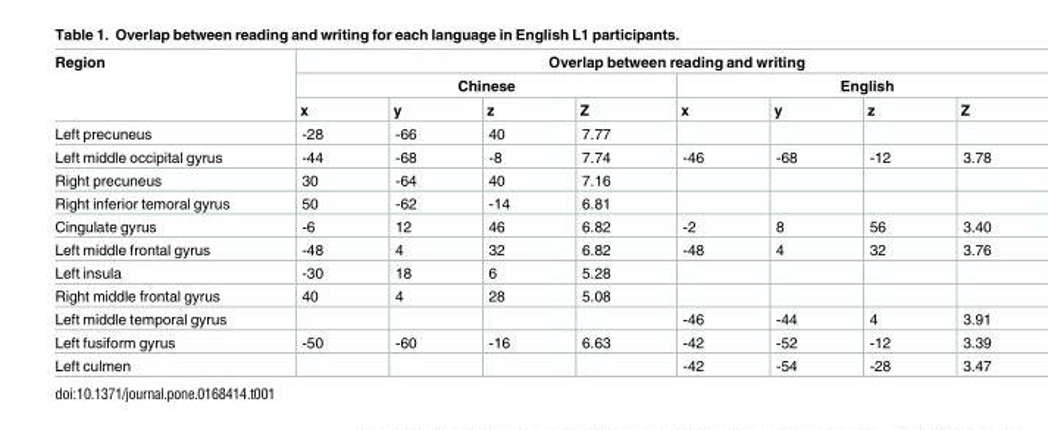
<table><thead><tr><td rowspan="3">Region</td><td colspan="8">Overlap between reading and writing</td></tr><tr><td colspan="4">Chinese</td><td colspan="4">English</td></tr><tr><td>x</td><td>y</td><td>z</td><td>Z</td><td>x</td><td>y</td><td>z</td><td>Z</td></tr></thead><tbody><tr><td>Left precuneus</td><td>-28</td><td>-66</td><td>40</td><td>7.77</td><td></td><td></td><td></td><td></td></tr><tr><td>Left middle occipital gyrus</td><td>-44</td><td>-68</td><td>-8</td><td>7.74</td><td>-46</td><td>-68</td><td>-12</td><td>3.78</td></tr><tr><td>Right precuneus</td><td>30</td><td>-64</td><td>40</td><td>7.16</td><td></td><td></td><td></td><td></td></tr><tr><td>Right inferior temoral gyrus</td><td>50</td><td>-62</td><td>-14</td><td>6.81</td><td></td><td></td><td></td><td></td></tr><tr><td>Cingulate gyrus</td><td>-6</td><td>12</td><td>46</td><td>6.82</td><td>-2</td><td>8</td><td>56</td><td>3.40</td></tr><tr><td>Left middle frontal gyrus</td><td>-48</td><td>4</td><td>32</td><td>6.82</td><td>-48</td><td>4</td><td>32</td><td>3.76</td></tr><tr><td>Left insula</td><td>-30</td><td>18</td><td>6</td><td>5.28</td><td></td><td></td><td></td><td></td></tr><tr><td>Right middle frontal gyrus</td><td>40</td><td>4</td><td>28</td><td>5.08</td><td></td><td></td><td></td><td></td></tr><tr><td>Left middle temporal gyrus</td><td></td><td></td><td></td><td></td><td>-46</td><td>-44</td><td>4</td><td>3.91</td></tr><tr><td>Left fusiform gyrus</td><td>-50</td><td>-60</td><td>-16</td><td>6.63</td><td>-42</td><td>-52</td><td>-12</td><td>3.39</td></tr><tr><td>Left culmen</td><td></td><td></td><td></td><td></td><td>-42</td><td>-54</td><td>-28</td><td>3.47</td></tr></tbody></table>